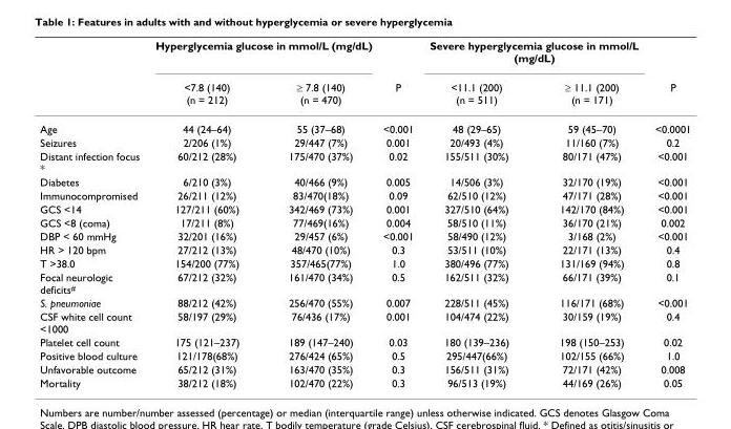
<table><thead><tr><td rowspan="2"></td><td colspan="2">Hyperglycemia glucose in mmol/L (mg/dL)</td><td rowspan="2">P</td><td colspan="2">Severe hyperglycemia glucose in mmol/L (mg/dL)</td><td rowspan="2">P</td></tr><tr><td>&lt;7.8 (140) (n = 212)</td><td>≥ 7.8 (140) (n = 470)</td><td>&lt;11.1 (200) (n = 511)</td><td>≥ 11.1 (200) (n = 171)</td></tr></thead><tbody><tr><td>Age</td><td>44 (24–64)</td><td>55 (37–68)</td><td>&lt;0.001</td><td>48 (29–65)</td><td>59 (45–70)</td><td>&lt;0.0001</td></tr><tr><td>Seizures</td><td>2/206 (1%)</td><td>29/447 (7%)</td><td>0.001</td><td>20/493 (4%)</td><td>11/160 (7%)</td><td>0.2</td></tr><tr><td>Distant infection focus *</td><td>60/212 (28%)</td><td>175/470 (37%)</td><td>0.02</td><td>155/511 (30%)</td><td>80/171 (47%)</td><td>&lt;0.001</td></tr><tr><td>Diabetes</td><td>6/210 (3%)</td><td>40/466 (9%)</td><td>0.005</td><td>14/506 (3%)</td><td>32/170 (19%)</td><td>&lt;0.001</td></tr><tr><td>Immunocompromised</td><td>26/211 (12%)</td><td>83/470(18%)</td><td>0.09</td><td>62/510 (12%)</td><td>47/171 (28%)</td><td>&lt;0.001</td></tr><tr><td>GCS &lt;14</td><td>127/211 (60%)</td><td>342/469 (73%)</td><td>0.001</td><td>327/510 (64%)</td><td>142/170 (84%)</td><td>&lt;0.001</td></tr><tr><td>GCS &lt;8 (coma)</td><td>17/211 (8%)</td><td>77/469(16%)</td><td>0.004</td><td>58/510 (11%)</td><td>36/170 (21%)</td><td>0.002</td></tr><tr><td>DBP &lt; 60 mmHg</td><td>32/201 (16%)</td><td>29/457 (6%)</td><td>&lt;0.001</td><td>58/490 (12%)</td><td>3/168 (2%)</td><td>&lt;0.001</td></tr><tr><td>HR &gt; 120 bpm</td><td>27/212 (13%)</td><td>48/470 (10%)</td><td>0.3</td><td>53/511 (10%)</td><td>22/171 (13%)</td><td>0.4</td></tr><tr><td>T &gt;38.0</td><td>154/200 (77%)</td><td>357/465(77%)</td><td>1.0</td><td>380/496 (77%)</td><td>131/169 (94%)</td><td>0.8</td></tr><tr><td>Focal neurologic deficits<sup>#</sup></td><td>67/212 (32%)</td><td>161/470 (34%)</td><td>0.5</td><td>162/511 (32%)</td><td>66/171 (39%)</td><td>0.1</td></tr><tr><td>S. pneumoniae</td><td>88/212 (42%)</td><td>256/470 (55%)</td><td>0.007</td><td>228/511 (45%)</td><td>116/171 (68%)</td><td>&lt;0.001</td></tr><tr><td>CSF white cell count &lt;1000</td><td>58/197 (29%)</td><td>76/436 (17%)</td><td>0.001</td><td>104/474 (22%)</td><td>30/159 (19%)</td><td>0.4</td></tr><tr><td>Platelet cell count</td><td>175 (121–237)</td><td>189 (147–240)</td><td>0.03</td><td>180 (139–236)</td><td>198 (150–253)</td><td>0.02</td></tr><tr><td>Positive blood culture</td><td>121/178(68%)</td><td>276/424 (65%)</td><td>0.5</td><td>295/447(66%)</td><td>102/155 (66%)</td><td>1.0</td></tr><tr><td>Unfavorable outcome</td><td>65/212 (31%)</td><td>163/470 (35%)</td><td>0.3</td><td>156/511 (31%)</td><td>72/171 (42%)</td><td>0.008</td></tr><tr><td>Mortality</td><td>38/212 (18%)</td><td>102/470 (22%)</td><td>0.3</td><td>96/513 (19%)</td><td>44/169 (26%)</td><td>0.05</td></tr></tbody></table>